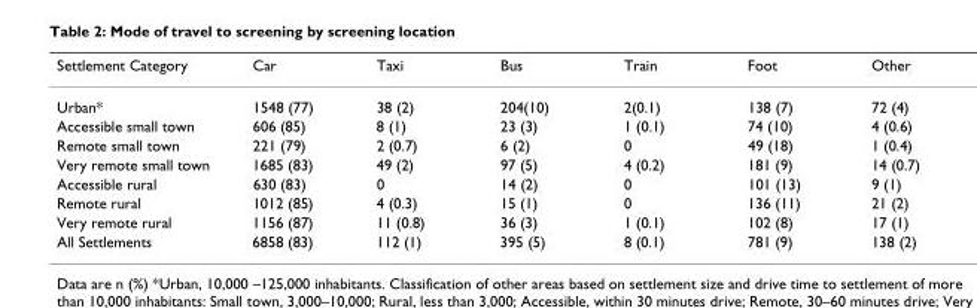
<table><thead><tr><td>Settlement Category</td><td>Car</td><td>Taxi</td><td>Bus</td><td>Train</td><td>Foot</td><td>Other</td></tr></thead><tbody><tr><td>Urban*</td><td>1548 (77)</td><td>38 (2)</td><td>204(10)</td><td>2(0.1)</td><td>138 (7)</td><td>72 (4)</td></tr><tr><td>Accessible small town</td><td>606 (85)</td><td>8 (1)</td><td>23 (3)</td><td>1 (0.1)</td><td>74 (10)</td><td>4 (0.6)</td></tr><tr><td>Remote small town</td><td>221 (79)</td><td>2 (0.7)</td><td>6 (2)</td><td>0</td><td>49 (18)</td><td>1 (0.4)</td></tr><tr><td>Very remote small town</td><td>1685 (83)</td><td>49 (2)</td><td>97 (5)</td><td>4 (0.2)</td><td>181 (9)</td><td>14 (0.7)</td></tr><tr><td>Accessible rural</td><td>630 (83)</td><td>0</td><td>14 (2)</td><td>0</td><td>101 (13)</td><td>9 (1)</td></tr><tr><td>Remote rural</td><td>1012 (85)</td><td>4 (0.3)</td><td>15 (1)</td><td>0</td><td>136 (11)</td><td>21 (2)</td></tr><tr><td>Very remote rural</td><td>1156 (87)</td><td>11 (0.8)</td><td>36 (3)</td><td>1 (0.1)</td><td>102 (8)</td><td>17 (1)</td></tr><tr><td>All Settlements</td><td>6858 (83)</td><td>112 (1)</td><td>395 (5)</td><td>8 (0.1)</td><td>781 (9)</td><td>138 (2)</td></tr></tbody></table>